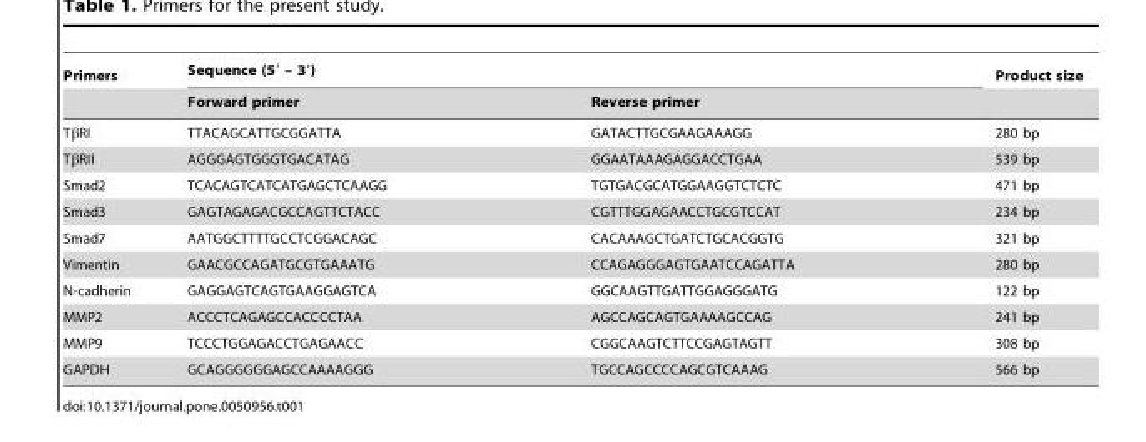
<table><thead><tr><td rowspan="2">Primers</td><td colspan="2">Sequence (5′ – 3′)</td><td rowspan="2">Product size</td></tr><tr><td>Forward primer</td><td>Reverse primer</td></tr></thead><tbody><tr><td>TβRI</td><td>TTACAGCATTGCGGATTA</td><td>GATACTTGCGAAGAAAGG</td><td>280 bp</td></tr><tr><td>TβRII</td><td>AGGGAGTGGGTGACATAG</td><td>GGAATAAAGAGGACCTGAA</td><td>539 bp</td></tr><tr><td>Smad2</td><td>TCACAGTCATCATGAGCTCAAGG</td><td>TGTGACGCATGGAAGGTCTCTC</td><td>471 bp</td></tr><tr><td>Smad3</td><td>GAGTAGAGACGCCAGTTCTACC</td><td>CGTTTGGAGAACCTGCGTCCAT</td><td>234 bp</td></tr><tr><td>Smad7</td><td>AATGGCTTTTGCCTCGGACAGC</td><td>CACAAAGCTGATCTGCACGGTG</td><td>321 bp</td></tr><tr><td>Vimentin</td><td>GAACGCCAGATGCGTGAAATG</td><td>CCAGAGGGAGTGAATCCAGATTA</td><td>280 bp</td></tr><tr><td>N-cadherin</td><td>GAGGAGTCAGTGAAGGAGTCA</td><td>GGCAAGTTGATTGGAGGGATG</td><td>122 bp</td></tr><tr><td>MMP2</td><td>ACCCTCAGAGCCACCCCTAA</td><td>AGCCAGCAGTGAAAAGCCAG</td><td>241 bp</td></tr><tr><td>MMP9</td><td>TCCCTGGAGACCTGAGAACC</td><td>CGGCAAGTCTTCCGAGTAGTT</td><td>308 bp</td></tr><tr><td>GAPDH</td><td>GCAGGGGGGAGCCAAAAGGG</td><td>TGCCAGCCCCAGCGTCAAAG</td><td>566 bp</td></tr></tbody></table>